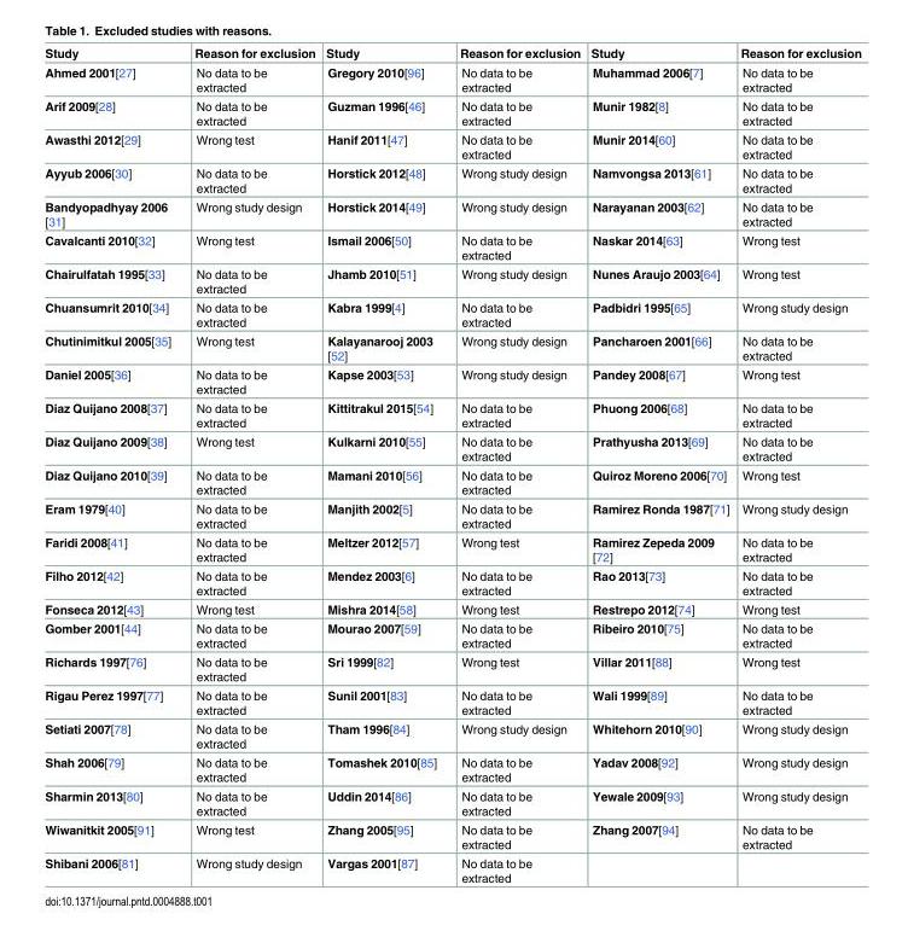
<table><thead><tr><td>Study</td><td>Reason for exclusion</td><td>Study</td><td>Reason for exclusion</td><td>Study</td><td>Reason for exclusion</td></tr></thead><tbody><tr><td>Ahmed 2001[27]</td><td>No data to be extracted</td><td>Gregory 2010[96]</td><td>No data to be extracted</td><td>Muhammad 2006[7]</td><td>No data to be extracted</td></tr><tr><td>Arif 2009[28]</td><td>No data to be extracted</td><td>Guzman 1996[46]</td><td>No data to be extracted</td><td>Munir 1982[8]</td><td>No data to be extracted</td></tr><tr><td>Awasthi 2012[29]</td><td>Wrong test</td><td>Hanif 2011[47]</td><td>No data to be extracted</td><td>Munir 2014[60]</td><td>No data to be extracted</td></tr><tr><td>Ayyub 2006[30]</td><td>No data to be extracted</td><td>Horstick 2012[48]</td><td>Wrong study design</td><td>Namvongsa 2013[61]</td><td>No data to be extracted</td></tr><tr><td>Bandyopadhyay 2006 [31]</td><td>Wrong study design</td><td>Horstick 2014[49]</td><td>Wrong study design</td><td>Narayanan 2003[62]</td><td>No data to be extracted</td></tr><tr><td>Cavalcanti 2010[32]</td><td>Wrong test</td><td>Ismail 2006[50]</td><td>No data to be extracted</td><td>Naskar 2014[63]</td><td>Wrong test</td></tr><tr><td>Chairulfatah 1995[33]</td><td>No data to be extracted</td><td>Jhamb 2010[51]</td><td>Wrong study design</td><td>Nunes Araujo 2003[64]</td><td>Wrong test</td></tr><tr><td>Chuansumrit 2010[34]</td><td>No data to be extracted</td><td>Kabra 1999[4]</td><td>No data to be extracted</td><td>Padbidri 1995[65]</td><td>Wrong study design</td></tr><tr><td>Chutinimitkul 2005[35]</td><td>Wrong test</td><td>Kalayanarooj 2003 [52]</td><td>Wrong study design</td><td>Pancharoen 2001[66]</td><td>No data to be extracted</td></tr><tr><td>Daniel 2005[36]</td><td>No data to be extracted</td><td>Kapse 2003[53]</td><td>Wrong study design</td><td>Pandey 2008[67]</td><td>Wrong test</td></tr><tr><td>Diaz Quijano 2008[37]</td><td>No data to be extracted</td><td>Kittitrakul 2015[54]</td><td>No data to be extracted</td><td>Phuong 2006[68]</td><td>No data to be extracted</td></tr><tr><td>Diaz Quijano 2009[38]</td><td>Wrong test</td><td>Kulkarni 2010[55]</td><td>No data to be extracted</td><td>Prathyusha 2013[69]</td><td>No data to be extracted</td></tr><tr><td>Diaz Quijano 2010[39]</td><td>No data to be extracted</td><td>Mamani 2010[56]</td><td>No data to be extracted</td><td>Quiroz Moreno 2006[70]</td><td>Wrong test</td></tr><tr><td>Eram 1979[40]</td><td>No data to be extracted</td><td>Manjith 2002[5]</td><td>No data to be extracted</td><td>Ramirez Ronda 1987[71]</td><td>Wrong study design</td></tr><tr><td>Faridi 2008[41]</td><td>No data to be extracted</td><td>Meltzer 2012[57]</td><td>Wrong test</td><td>Ramirez Zepeda 2009 [72]</td><td>No data to be extracted</td></tr><tr><td>Filho 2012[42]</td><td>No data to be extracted</td><td>Mendez 2003[6]</td><td>No data to be extracted</td><td>Rao 2013[73]</td><td>No data to be extracted</td></tr><tr><td>Fonseca 2012[43]</td><td>Wrong test</td><td>Mishra 2014[58]</td><td>Wrong test</td><td>Restrepo 2012[74]</td><td>Wrong test</td></tr><tr><td>Gomber 2001[44]</td><td>No data to be extracted</td><td>Mourao 2007[59]</td><td>No data to be extracted</td><td>Ribeiro 2010[75]</td><td>No data to be extracted</td></tr><tr><td>Richards 1997[76]</td><td>No data to be extracted</td><td>Sri 1999[82]</td><td>Wrong test</td><td>Villar 2011[88]</td><td>Wrong test</td></tr><tr><td>Rigau Perez 1997[77]</td><td>No data to be extracted</td><td>Sunil 2001[83]</td><td>No data to be extracted</td><td>Wali 1999[89]</td><td>No data to be extracted</td></tr><tr><td>Setiati 2007[78]</td><td>No data to be extracted</td><td>Tham 1996[84]</td><td>Wrong study design</td><td>Whitehorn 2010[90]</td><td>Wrong study design</td></tr><tr><td>Shah 2006[79]</td><td>No data to be extracted</td><td>Tomashek 2010[85]</td><td>No data to be extracted</td><td>Yadav 2008[92]</td><td>Wrong study design</td></tr><tr><td>Sharmin 2013[80]</td><td>No data to be extracted</td><td>Uddin 2014[86]</td><td>No data to be extracted</td><td>Yewale 2009[93]</td><td>Wrong study design</td></tr><tr><td>Wiwanitkit 2005[91]</td><td>Wrong test</td><td>Zhang 2005[95]</td><td>No data to be extracted</td><td>Zhang 2007[94]</td><td>No data to be extracted</td></tr><tr><td>Shibani 2006[81]</td><td>Wrong study design</td><td>Vargas 2001[87]</td><td>No data to be extracted</td><td></td><td></td></tr></tbody></table>